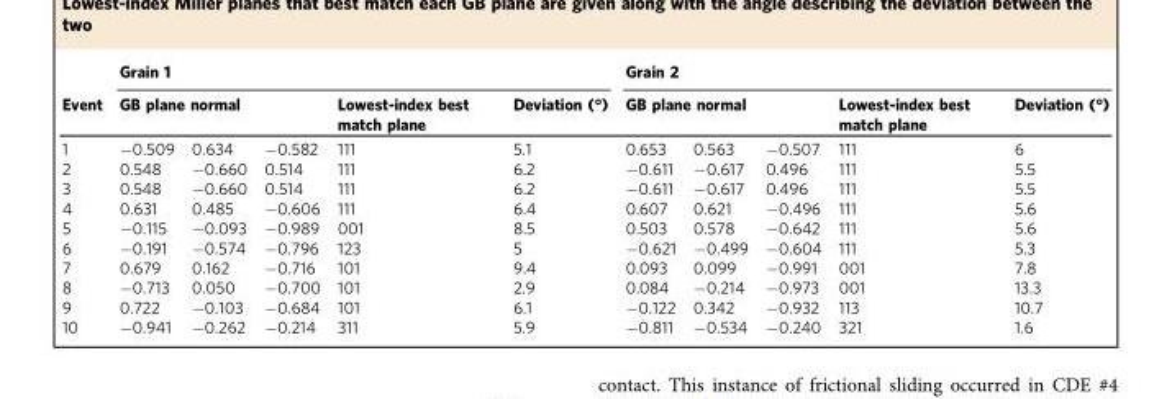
<table><thead><tr><td rowspan="3">Event 1</td><td colspan="5">Grain 1</td><td colspan="5">Grain 2</td></tr><tr><td colspan="3">GB plane normal</td><td rowspan="2">Lowest-index best match plane 111</td><td rowspan="2">Deviation (°) 5.1</td><td colspan="3">GB plane normal</td><td rowspan="2">Lowest-index best match plane 111</td><td rowspan="2">Deviation (°) 6</td></tr><tr><td>−0.509</td><td>0.634</td><td>−0.582</td><td>0.653</td><td>0.563</td><td>−0.507</td></tr></thead><tbody><tr><td>2</td><td>0.548</td><td>−0.660</td><td>0.514</td><td>111</td><td>6.2</td><td>−0.611</td><td>−0.617</td><td>0.496</td><td>111</td><td>5.5</td></tr><tr><td>3</td><td>0.548</td><td>−0.660</td><td>0.514</td><td>111</td><td>6.2</td><td>−0.611</td><td>−0.617</td><td>0.496</td><td>111</td><td>5.5</td></tr><tr><td>4</td><td>0.631</td><td>0.485</td><td>−0.606</td><td>111</td><td>6.4</td><td>0.607</td><td>0.621</td><td>−0.496</td><td>111</td><td>5.6</td></tr><tr><td>5</td><td>−0.115</td><td>−0.093</td><td>−0.989</td><td>001</td><td>8.5</td><td>0.503</td><td>0.578</td><td>−0.642</td><td>111</td><td>5.6</td></tr><tr><td>6</td><td>−0.191</td><td>−0.574</td><td>−0.796</td><td>123</td><td>5</td><td>−0.621</td><td>−0.499</td><td>−0.604</td><td>111</td><td>5.3</td></tr><tr><td>7</td><td>0.679</td><td>0.162</td><td>−0.716</td><td>101</td><td>9.4</td><td>0.093</td><td>0.099</td><td>−0.991</td><td>001</td><td>7.8</td></tr><tr><td>8</td><td>−0.713</td><td>0.050</td><td>−0.700</td><td>101</td><td>2.9</td><td>0.084</td><td>−0.214</td><td>−0.973</td><td>001</td><td>13.3</td></tr><tr><td>9</td><td>0.722</td><td>−0.103</td><td>−0.684</td><td>101</td><td>6.1</td><td>−0.122</td><td>0.342</td><td>−0.932</td><td>113</td><td>10.7</td></tr><tr><td>10</td><td>−0.941</td><td>−0.262</td><td>−0.214</td><td>311</td><td>5.9</td><td>−0.811</td><td>−0.534</td><td>−0.240</td><td>321</td><td>1.6</td></tr></tbody></table>